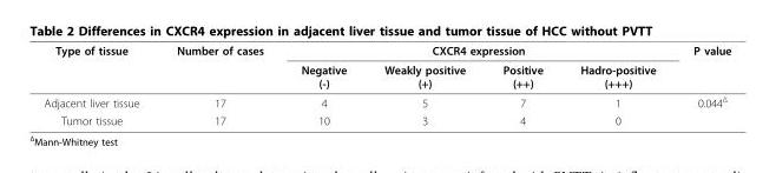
<table><thead><tr><td rowspan="2">Type of tissue</td><td rowspan="2">Number of cases</td><td colspan="4">CXCR4 expression</td><td rowspan="2">P value</td></tr><tr><td>Negative (-)</td><td>Weakly positive (+)</td><td>Positive (++)</td><td>Hadro-positive (+++)</td></tr></thead><tbody><tr><td>Adjacent liver tissue</td><td>17</td><td>4</td><td>5</td><td>7</td><td>1</td><td>0.044<sup>Δ</sup></td></tr><tr><td>Tumor tissue</td><td>17</td><td>10</td><td>3</td><td>4</td><td>0</td><td></td></tr></tbody></table>